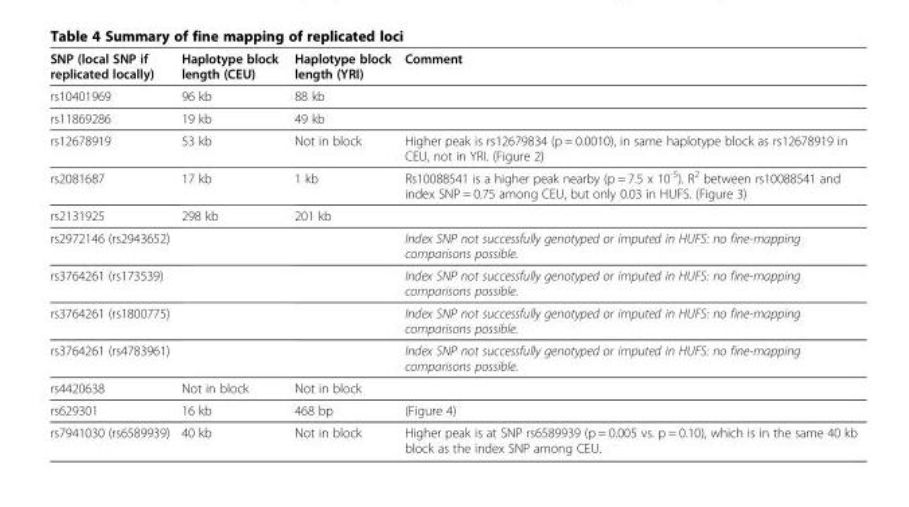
<table><thead><tr><td>SNP (local SNP if replicated locally)</td><td>Haplotype block length (CEU)</td><td>Haplotype block length (YRI)</td><td>Comment</td></tr></thead><tbody><tr><td>rs10401969</td><td>96 kb</td><td>88 kb</td><td></td></tr><tr><td>rs11869286</td><td>19 kb</td><td>49 kb</td><td></td></tr><tr><td>rs12678919</td><td>53 kb</td><td>Not in block</td><td>Higher peak is rs12679834 (p = 0.0010), in same haplotype block as rs12678919 in CEU, not in YRI. (Figure 2)</td></tr><tr><td>rs2081687</td><td>17 kb</td><td>1 kb</td><td>Rs10088541 is a higher peak nearby (p = 7.5 x 10<sup>-5</sup>). R<sup>2</sup> between rs10088541 and index SNP = 0.75 among CEU, but only 0.03 in HUFS. (Figure 3)</td></tr><tr><td>rs2131925</td><td>298 kb</td><td>201 kb</td><td></td></tr><tr><td>rs2972146 (rs2943652)</td><td></td><td></td><td>Index SNP not successfully genotyped or imputed in HUFS: no fine-mapping comparisons possible.</td></tr><tr><td>rs3764261 (rs173539)</td><td></td><td></td><td>Index SNP not successfully genotyped or imputed in HUFS: no fine-mapping comparisons possible.</td></tr><tr><td>rs3764261 (rs1800775)</td><td></td><td></td><td>Index SNP not successfully genotyped or imputed in HUFS: no fine-mapping comparisons possible.</td></tr><tr><td>rs3764261 (rs4783961)</td><td></td><td></td><td>Index SNP not successfully genotyped or imputed in HUFS: no fine-mapping comparisons possible.</td></tr><tr><td>rs4420638</td><td>Not in block</td><td>Not in block</td><td></td></tr><tr><td>rs629301</td><td>16 kb</td><td>468 bp</td><td>(Figure 4)</td></tr><tr><td>rs7941030 (rs6589939)</td><td>40 kb</td><td>Not in block</td><td>Higher peak is at SNP rs6589939 (p = 0.005 vs. p = 0.10), which is in the same 40 kb block as the index SNP among CEU.</td></tr></tbody></table>